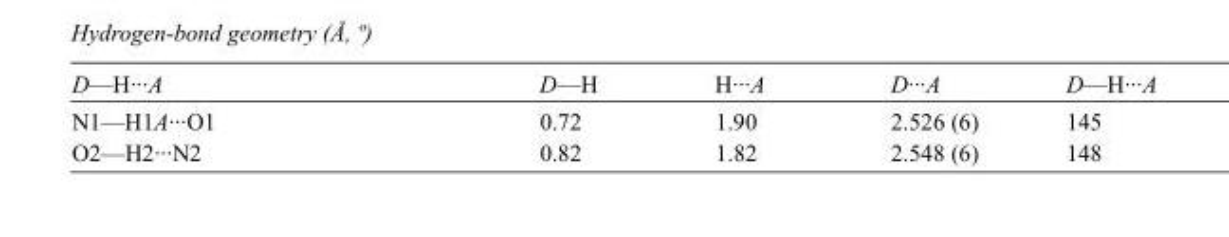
<table><tbody><tr><td>D—H···A</td><td>D—H</td><td>H···A</td><td>D···A</td><td>D—H···A</td></tr><tr><td>N1—H1A···O1</td><td>0.72</td><td>1.90</td><td>2.526 (6)</td><td>145</td></tr><tr><td>O2—H2···N2</td><td>0.82</td><td>1.82</td><td>2.548 (6)</td><td>148</td></tr></tbody></table>